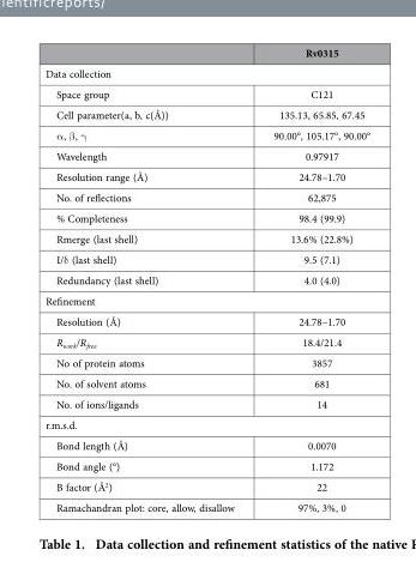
<table><thead><tr><td></td><td>Rv0315</td></tr></thead><tbody><tr><td colspan="2">Data collection</td></tr><tr><td>Space group</td><td>C121</td></tr><tr><td>Cell parameter(a, b, c(Å))</td><td>135.13, 65.85, 67.45</td></tr><tr><td>α , β , γ</td><td>90.00°, 105.17°, 90.00°</td></tr><tr><td>Wavelength</td><td>0.97917</td></tr><tr><td>Resolution range (Å)</td><td>24.78–1.70</td></tr><tr><td>No. of reflections</td><td>62,875</td></tr><tr><td>% Completeness</td><td>98.4 (99.9)</td></tr><tr><td>Rmerge (last shell)</td><td>13.6% (22.8%)</td></tr><tr><td>I/δ (last shell)</td><td>9.5 (7.1)</td></tr><tr><td>Redundancy (last shell)</td><td>4.0 (4.0)</td></tr><tr><td colspan="2">Refinement</td></tr><tr><td>Resolution (Å)</td><td>24.78–1.70</td></tr><tr><td>R<sub>work</sub>/R<sub>free</sub></td><td>18.4/21.4</td></tr><tr><td>No of protein atoms</td><td>3857</td></tr><tr><td>No. of solvent atoms</td><td>681</td></tr><tr><td>No. of ions/ligands</td><td>14</td></tr><tr><td colspan="2">r.m.s.d.</td></tr><tr><td>Bond length (Å)</td><td>0.0070</td></tr><tr><td>Bond angle (°)</td><td>1.172</td></tr><tr><td>B factor (Å<sup>2</sup>)</td><td>22</td></tr><tr><td>Ramachandran plot: core, allow, disallow</td><td>97%, 3%, 0</td></tr></tbody></table>